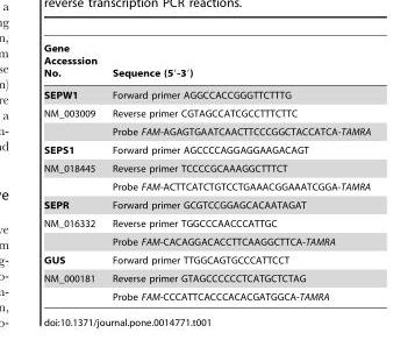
<table><thead><tr><td>Gene Accesssion No.</td><td>Sequence (5′-3′)</td></tr></thead><tbody><tr><td>SEPW1</td><td>Forward primer AGGCCACCGGGTTCTTTG</td></tr><tr><td rowspan="2">NM_003009</td><td>Reverse primer CGTAGCCATCGCCTTTCTTC</td></tr><tr><td>Probe FAM-AGAGTGAATCAACTTCCCGGCTACCATCA-TAMRA</td></tr><tr><td>SEPS1</td><td>Forward primer AGCCCCAGGAGGAAGACAGT</td></tr><tr><td rowspan="2">NM_018445</td><td>Reverse primer TCCCCGCAAAGGCTTTCT</td></tr><tr><td>Probe FAM-ACTTCATCTGTCCTGAAACGGAAATCGGA-TAMRA</td></tr><tr><td>SEPR</td><td>Forward primer GCGTCCGGAGCACAATAGAT</td></tr><tr><td rowspan="2">NM_016332</td><td>Reverse primer TGGCCCAACCCATTGC</td></tr><tr><td>Probe FAM-CACAGGACACCTTCAAGGCTTCA-TAMRA</td></tr><tr><td>GUS</td><td>Forward primer TTGGCAGTGCCCATTCCT</td></tr><tr><td rowspan="2">NM_000181</td><td>Reverse primer GTAGCCCCCCTCATGCTCTAG</td></tr><tr><td>Probe FAM-CCCATTCACCCACACGATGGCA-TAMRA</td></tr></tbody></table>